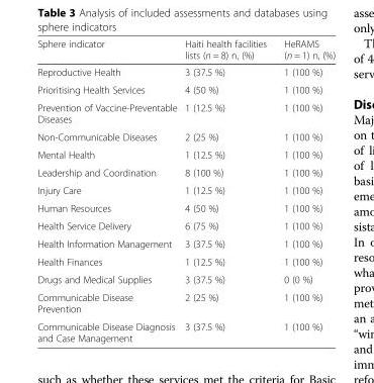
<table><thead><tr><td>Sphere indicator</td><td>Haiti health facilities lists (n = 8) n, (%)</td><td>HeRAMS (n = 1) n, (%)</td></tr></thead><tbody><tr><td>Reproductive Health</td><td>3 (37.5 %)</td><td>1 (100 %)</td></tr><tr><td>Prioritising Health Services</td><td>4 (50 %)</td><td>1 (100 %)</td></tr><tr><td>Prevention of Vaccine-Preventable Diseases</td><td>1 (12.5 %)</td><td>1 (100 %)</td></tr><tr><td>Non-Communicable Diseases</td><td>2 (25 %)</td><td>1 (100 %)</td></tr><tr><td>Mental Health</td><td>1 (12.5 %)</td><td>1 (100 %)</td></tr><tr><td>Leadership and Coordination</td><td>8 (100 %)</td><td>1 (100 %)</td></tr><tr><td>Injury Care</td><td>1 (12.5 %)</td><td>1 (100 %)</td></tr><tr><td>Human Resources</td><td>4 (50 %)</td><td>1 (100 %)</td></tr><tr><td>Health Service Delivery</td><td>6 (75 %)</td><td>1 (100 %)</td></tr><tr><td>Health Information Management</td><td>3 (37.5 %)</td><td>1 (100 %)</td></tr><tr><td>Health Finances</td><td>1 (12.5 %)</td><td>1 (100 %)</td></tr><tr><td>Drugs and Medical Supplies</td><td>3 (37.5 %)</td><td>0 (0 %)</td></tr><tr><td>Communicable Disease Prevention</td><td>2 (25 %)</td><td>1 (100 %)</td></tr><tr><td>Communicable Disease Diagnosis and Case Management</td><td>3 (37.5 %)</td><td>1 (100 %)</td></tr></tbody></table>